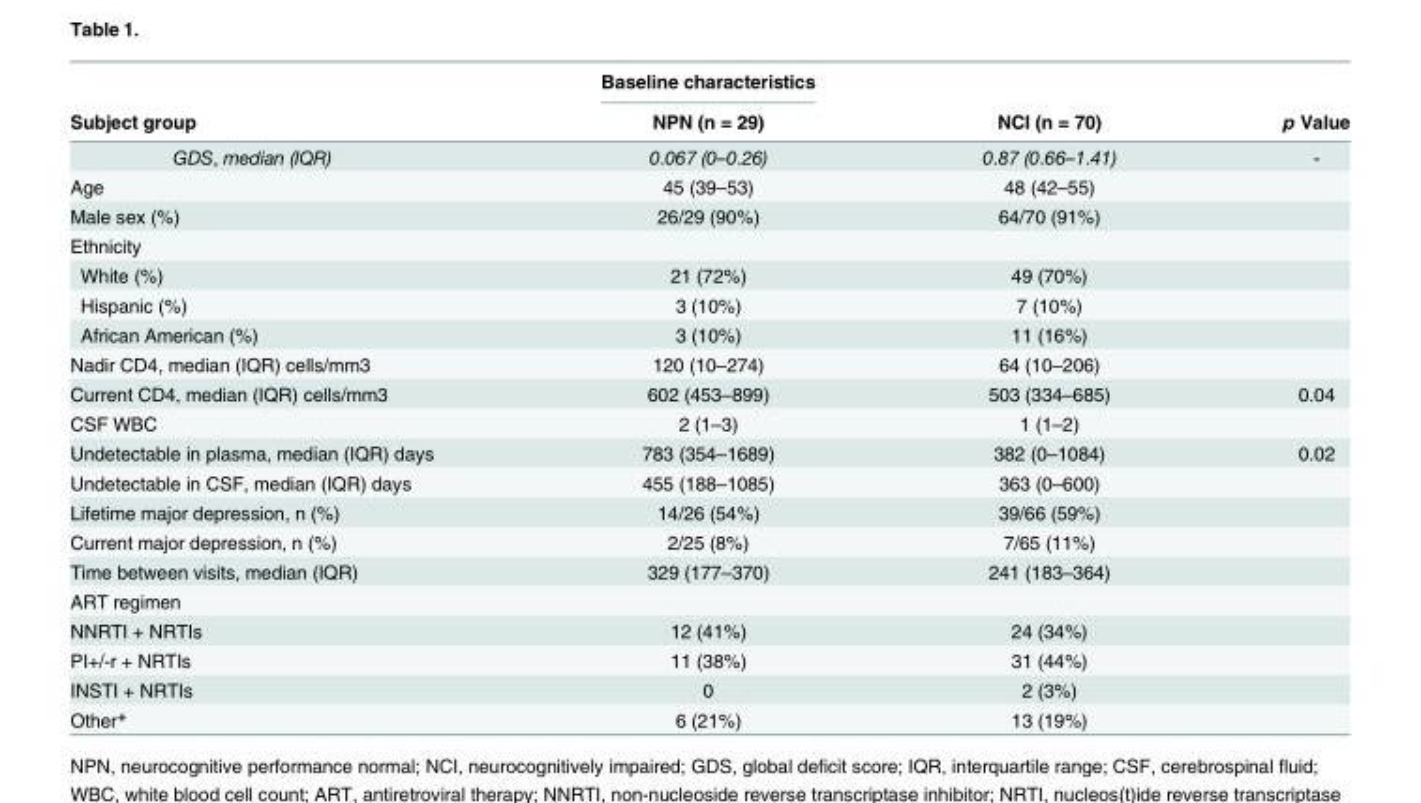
<table><thead><tr><td rowspan="2">Subject group</td><td rowspan="2">Baseline characteristics NPN (n = 29)</td><td rowspan="2">NCI (n = 70)</td><td rowspan="2">p Value</td></tr><tr></tr></thead><tbody><tr><td>GDS, median (IQR)</td><td>0.067 (0–0.26)</td><td>0.87 (0.66–1.41)</td><td>-</td></tr><tr><td>Age</td><td>45 (39–53)</td><td>48 (42–55)</td><td></td></tr><tr><td>Male sex (%)</td><td>26/29 (90%)</td><td>64/70 (91%)</td><td></td></tr><tr><td colspan="4">Ethnicity</td></tr><tr><td>White (%)</td><td>21 (72%)</td><td>49 (70%)</td><td></td></tr><tr><td>Hispanic (%)</td><td>3 (10%)</td><td>7 (10%)</td><td></td></tr><tr><td>African American (%)</td><td>3 (10%)</td><td>11 (16%)</td><td></td></tr><tr><td>Nadir CD4, median (IQR) cells/mm3</td><td>120 (10–274)</td><td>64 (10–206)</td><td></td></tr><tr><td>Current CD4, median (IQR) cells/mm3</td><td>602 (453–899)</td><td>503 (334–685)</td><td>0.04</td></tr><tr><td>CSF WBC</td><td>2 (1–3)</td><td>1 (1–2)</td><td></td></tr><tr><td>Undetectable in plasma, median (IQR) days</td><td>783 (354–1689)</td><td>382 (0–1084)</td><td>0.02</td></tr><tr><td>Undetectable in CSF, median (IQR) days</td><td>455 (188–1085)</td><td>363 (0–600)</td><td></td></tr><tr><td>Lifetime major depression, n (%)</td><td>14/26 (54%)</td><td>39/66 (59%)</td><td></td></tr><tr><td>Current major depression, n (%)</td><td>2/25 (8%)</td><td>7/65 (11%)</td><td></td></tr><tr><td>Time between visits, median (IQR)</td><td>329 (177–370)</td><td>241 (183–364)</td><td></td></tr><tr><td colspan="4">ART regimen</td></tr><tr><td>NNRTI + NRTIs</td><td>12 (41%)</td><td>24 (34%)</td><td></td></tr><tr><td>PI+/-r + NRTIs</td><td>11 (38%)</td><td>31 (44%)</td><td></td></tr><tr><td>INSTI + NRTIs</td><td>0</td><td>2 (3%)</td><td></td></tr><tr><td>Other*</td><td>6 (21%)</td><td>13 (19%)</td><td></td></tr></tbody></table>